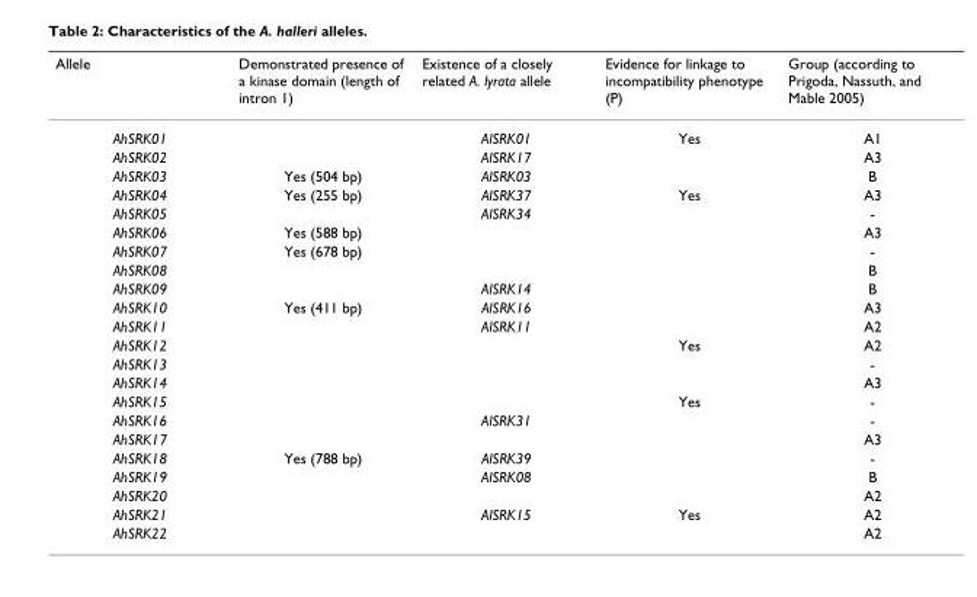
<table><thead><tr><td>Allele</td><td>Demonstrated presence of a kinase domain (length of intron 1)</td><td>Existence of a closely related A. lyrata allele</td><td>Evidence for linkage to incompatibility phenotype (P)</td><td>Group (according to Prigoda, Nassuth, and Mable 2005)</td></tr></thead><tbody><tr><td>AhSRK01</td><td></td><td>AlSRK01</td><td>Yes</td><td>A1</td></tr><tr><td>AhSRK02</td><td></td><td>AlSRK17</td><td></td><td>A3</td></tr><tr><td>AhSRK03</td><td>Yes (504 bp)</td><td>AlSRK03</td><td></td><td>B</td></tr><tr><td>AhSRK04</td><td>Yes (255 bp)</td><td>AlSRK37</td><td>Yes</td><td>A3</td></tr><tr><td>AhSRK05</td><td></td><td>AlSRK34</td><td></td><td>-</td></tr><tr><td>AhSRK06</td><td>Yes (588 bp)</td><td></td><td></td><td>A3</td></tr><tr><td>AhSRK07</td><td>Yes (678 bp)</td><td></td><td></td><td>-</td></tr><tr><td>AhSRK08</td><td></td><td></td><td></td><td>B</td></tr><tr><td>AhSRK09</td><td></td><td>AlSRK14</td><td></td><td>B</td></tr><tr><td>AhSRK10</td><td>Yes (411 bp)</td><td>AlSRK16</td><td></td><td>A3</td></tr><tr><td>AhSRK11</td><td></td><td>AlSRK11</td><td></td><td>A2</td></tr><tr><td>AhSRK12</td><td></td><td></td><td>Yes</td><td>A2</td></tr><tr><td>AhSRK13</td><td></td><td></td><td></td><td>-</td></tr><tr><td>AhSRK14</td><td></td><td></td><td></td><td>A3</td></tr><tr><td>AhSRK15</td><td></td><td></td><td>Yes</td><td>-</td></tr><tr><td>AhSRK16</td><td></td><td>AlSRK31</td><td></td><td>-</td></tr><tr><td>AhSRK17</td><td></td><td></td><td></td><td>A3</td></tr><tr><td>AhSRK18</td><td>Yes (788 bp)</td><td>AlSRK39</td><td></td><td>-</td></tr><tr><td>AhSRK19</td><td></td><td>AlSRK08</td><td></td><td>B</td></tr><tr><td>AhSRK20</td><td></td><td></td><td></td><td>A2</td></tr><tr><td>AhSRK21</td><td></td><td>AlSRK15</td><td>Yes</td><td>A2</td></tr><tr><td>AhSRK22</td><td></td><td></td><td></td><td>A2</td></tr></tbody></table>